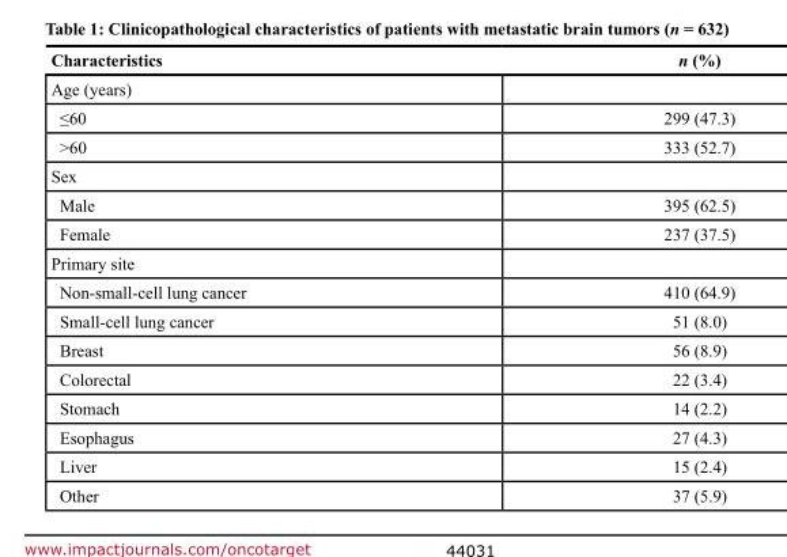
<table><thead><tr><td>Characteristics</td><td>n (%)</td></tr></thead><tbody><tr><td colspan="2">Age (years)</td></tr><tr><td>≤60</td><td>299 (47.3)</td></tr><tr><td>&gt;60</td><td>333 (52.7)</td></tr><tr><td colspan="2">Sex</td></tr><tr><td>Male</td><td>395 (62.5)</td></tr><tr><td>Female</td><td>237 (37.5)</td></tr><tr><td colspan="2">Primary site</td></tr><tr><td>Non-small-cell lung cancer</td><td>410 (64.9)</td></tr><tr><td>Small-cell lung cancer</td><td>51 (8.0)</td></tr><tr><td>Breast</td><td>56 (8.9)</td></tr><tr><td>Colorectal</td><td>22 (3.4)</td></tr><tr><td>Stomach</td><td>14 (2.2)</td></tr><tr><td>Esophagus</td><td>27 (4.3)</td></tr><tr><td>Liver</td><td>15 (2.4)</td></tr><tr><td>Other</td><td>37 (5.9)</td></tr></tbody></table>